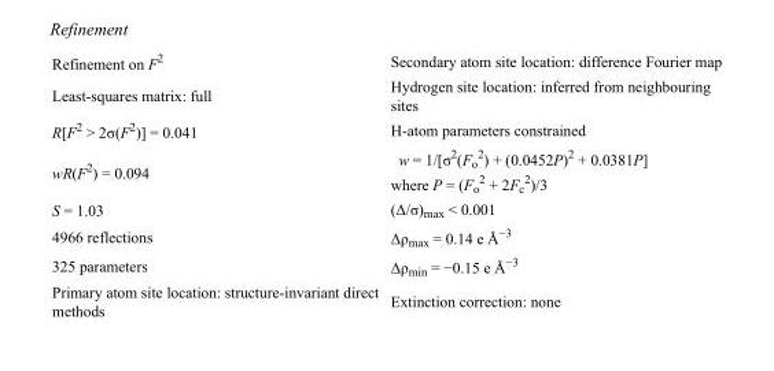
<table><tbody><tr><td>Refinement on F<sup>2</sup></td><td>Secondary atom site location: difference Fourier map</td></tr><tr><td>Least-squares matrix: full</td><td>Hydrogen site location: inferred from neighbouring sites</td></tr><tr><td>R[F<sup>2</sup> &gt; 2σ(F<sup>2</sup>)] = 0.041</td><td>H-atom parameters constrained</td></tr><tr><td>wR(F<sup>2</sup>) = 0.094</td><td>w = 1/[σ<sup>2</sup>(F<sub>o</sub> <sup>2</sup>) + (0.0452P)<sup>2</sup> + 0.0381P] where P = (F<sub>o</sub> <sup>2</sup> + 2F<sub>c</sub> <sup>2</sup>)/3</td></tr><tr><td>S = 1.03</td><td>(Δ/σ)<sub>max</sub> &lt; 0.001</td></tr><tr><td>4966 reflections</td><td>Δρ<sub>max</sub> = 0.14 e Å<sup>−3</sup></td></tr><tr><td>325 parameters</td><td>Δρ<sub>min</sub> = −0.15 e Å<sup>−3</sup></td></tr><tr><td>Primary atom site location: structure-invariant direct methods</td><td>Extinction correction: none</td></tr></tbody></table>